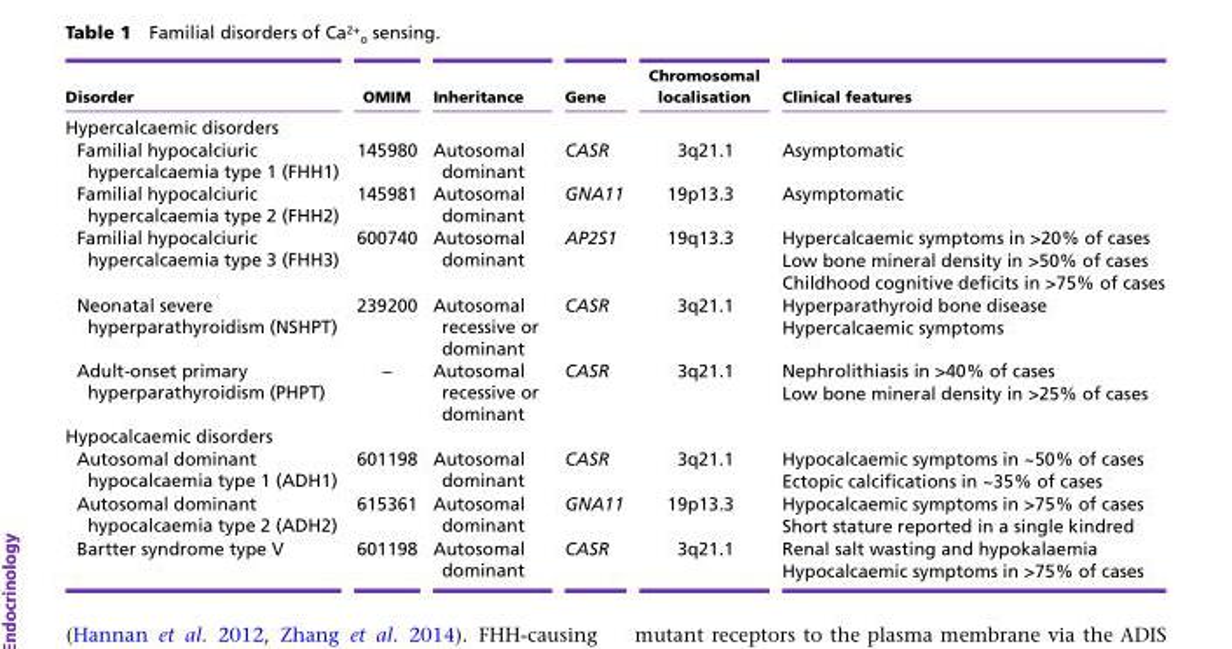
<table><thead><tr><td>Disorder</td><td>OMIM</td><td>Inheritance</td><td>Gene</td><td>Chromosomal localisation</td><td>Clinical features</td></tr></thead><tbody><tr><td colspan="6">Hypercalcaemic disorders</td></tr><tr><td>Familial hypocalciuric hypercalcaemia type 1 (FHH1)</td><td>145980</td><td>Autosomal dominant</td><td>CASR</td><td>3q21.1</td><td>Asymptomatic</td></tr><tr><td>Familial hypocalciuric hypercalcaemia type 2 (FHH2)</td><td>145981</td><td>Autosomal dominant</td><td>GNA11</td><td>19p13.3</td><td>Asymptomatic</td></tr><tr><td>Familial hypocalciuric hypercalcaemia type 3 (FHH3)</td><td>600740</td><td>Autosomal dominant</td><td>AP2S1</td><td>19q13.3</td><td>Hypercalcaemic symptoms in &gt;20% of cases Low bone mineral density in &gt;50% of cases Childhood cognitive deficits in &gt;75% of cases</td></tr><tr><td>Neonatal severe hyperparathyroidism (NSHPT)</td><td>239200</td><td>Autosomal recessive or dominant</td><td>CASR</td><td>3q21.1</td><td>Hyperparathyroid bone disease Hypercalcaemic symptoms</td></tr><tr><td>Adult-onset primary hyperparathyroidism (PHPT)</td><td>–</td><td>Autosomal recessive or dominant</td><td>CASR</td><td>3q21.1</td><td>Nephrolithiasis in &gt;40% of cases Low bone mineral density in &gt;25% of cases</td></tr><tr><td colspan="6">Hypocalcaemic disorders</td></tr><tr><td>Autosomal dominant hypocalcaemia type 1 (ADH1)</td><td>601198</td><td>Autosomal dominant</td><td>CASR</td><td>3q21.1</td><td>Hypocalcaemic symptoms in ~50% of cases Ectopic calcifications in ~35% of cases</td></tr><tr><td>Autosomal dominant hypocalcaemia type 2 (ADH2)</td><td>615361</td><td>Autosomal dominant</td><td>GNA11</td><td>19p13.3</td><td>Hypocalcaemic symptoms in &gt;75% of cases Short stature reported in a single kindred</td></tr><tr><td>Bartter syndrome type V</td><td>601198</td><td>Autosomal dominant</td><td>CASR</td><td>3q21.1</td><td>Renal salt wasting and hypokalaemia Hypocalcaemic symptoms in &gt;75% of cases</td></tr></tbody></table>